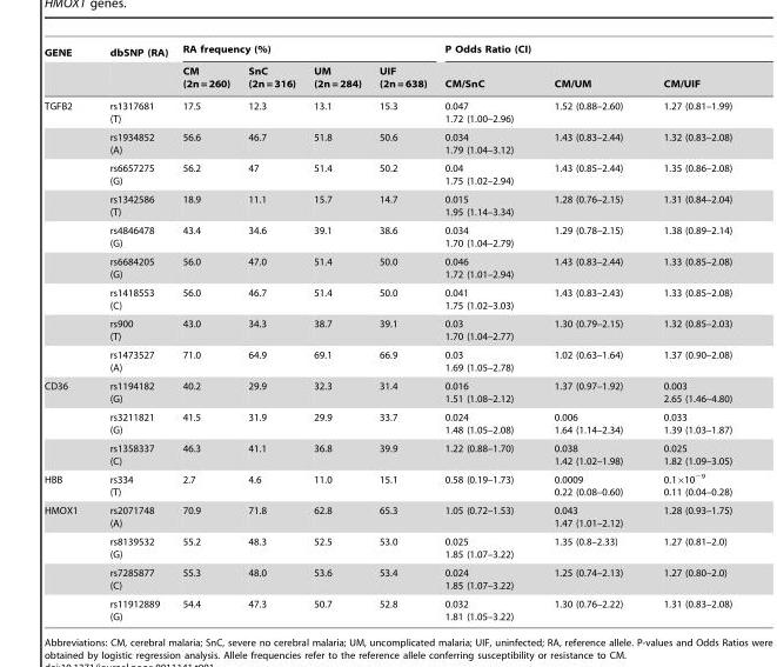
<table><thead><tr><td rowspan="2">GENE</td><td rowspan="2">dbSNP (RA)</td><td colspan="4">RA frequency (%)</td><td colspan="3">P Odds Ratio (CI)</td></tr><tr><td>CM (2n = 260)</td><td>SnC (2n = 316)</td><td>UM (2n = 284)</td><td>UIF (2n = 638)</td><td>CM/SnC</td><td>CM/UM</td><td>CM/UIF</td></tr></thead><tbody><tr><td rowspan="9">TGFB2</td><td>rs1317681 (T)</td><td>17.5</td><td>12.3</td><td>13.1</td><td>15.3</td><td>0.047 1.72 (1.00–2.96)</td><td>1.52 (0.88–2.60)</td><td>1.27 (0.81–1.99)</td></tr><tr><td>rs1934852 (A)</td><td>56.6</td><td>46.7</td><td>51.8</td><td>50.6</td><td>0.034 1.79 (1.04–3.12)</td><td>1.43 (0.83–2.44)</td><td>1.32 (0.83–2.08)</td></tr><tr><td>rs6657275 (G)</td><td>56.2</td><td>47</td><td>51.4</td><td>50.2</td><td>0.04 1.75 (1.02–2.94)</td><td>1.43 (0.85–2.44)</td><td>1.35 (0.86–2.08)</td></tr><tr><td>rs1342586 (T)</td><td>18.9</td><td>11.1</td><td>15.7</td><td>14.7</td><td>0.015 1.95 (1.14–3.34)</td><td>1.28 (0.76–2.15)</td><td>1.31 (0.84–2.04)</td></tr><tr><td>rs4846478 (G)</td><td>43.4</td><td>34.6</td><td>39.1</td><td>38.6</td><td>0.034 1.70 (1.04–2.79)</td><td>1.29 (0.78–2.15)</td><td>1.38 (0.89–2.14)</td></tr><tr><td>rs6684205 (G)</td><td>56.0</td><td>47.0</td><td>51.4</td><td>50.0</td><td>0.046 1.72 (1.01–2.94)</td><td>1.43 (0.83–2.44)</td><td>1.33 (0.85–2.08)</td></tr><tr><td>rs1418553 (C)</td><td>56.0</td><td>46.7</td><td>51.4</td><td>50.0</td><td>0.041 1.75 (1.02–3.03)</td><td>1.43 (0.83–2.43)</td><td>1.33 (0.85–2.08)</td></tr><tr><td>rs900 (T)</td><td>43.0</td><td>34.3</td><td>38.7</td><td>39.1</td><td>0.03 1.70 (1.04–2.77)</td><td>1.30 (0.79–2.15)</td><td>1.32 (0.85–2.03)</td></tr><tr><td>rs1473527 (A)</td><td>71.0</td><td>64.9</td><td>69.1</td><td>66.9</td><td>0.03 1.69 (1.05–2.78)</td><td>1.02 (0.63–1.64)</td><td>1.37 (0.90–2.08)</td></tr><tr><td rowspan="3">CD36</td><td>rs1194182 (G)</td><td>40.2</td><td>29.9</td><td>32.3</td><td>31.4</td><td>0.016 1.51 (1.08–2.12)</td><td>1.37 (0.97–1.92)</td><td>0.003 2.65 (1.46–4.80)</td></tr><tr><td>rs3211821 (G)</td><td>41.5</td><td>31.9</td><td>29.9</td><td>33.7</td><td>0.024 1.48 (1.05–2.08)</td><td>0.006 1.64 (1.14–2.34)</td><td>0.033 1.39 (1.03–1.87)</td></tr><tr><td>rs1358337 (C)</td><td>46.3</td><td>41.1</td><td>36.8</td><td>39.9</td><td>1.22 (0.88–1.70)</td><td>0.038 1.42 (1.02–1.98)</td><td>0.025 1.82 (1.09–3.05)</td></tr><tr><td>HBB</td><td>rs334 (T)</td><td>2.7</td><td>4.6</td><td>11.0</td><td>15.1</td><td>0.58 (0.19–1.73)</td><td>0.0009 0.22 (0.08–0.60)</td><td>0.1×10<sup>−9</sup> 0.11 (0.04–0.28)</td></tr><tr><td rowspan="4">HMOX1</td><td>rs2071748 (A)</td><td>70.9</td><td>71.8</td><td>62.8</td><td>65.3</td><td>1.05 (0.72–1.53)</td><td>0.043 1.47 (1.01–2.12)</td><td>1.28 (0.93–1.75)</td></tr><tr><td>rs8139532 (G)</td><td>55.2</td><td>48.3</td><td>52.5</td><td>53.0</td><td>0.025 1.85 (1.07–3.22)</td><td>1.35 (0.8–2.33)</td><td>1.27 (0.81–2.0)</td></tr><tr><td>rs7285877 (C)</td><td>55.3</td><td>48.0</td><td>53.6</td><td>53.4</td><td>0.024 1.85 (1.07–3.22)</td><td>1.25 (0.74–2.13)</td><td>1.27 (0.80–2.0)</td></tr><tr><td>rs11912889 (G)</td><td>54.4</td><td>47.3</td><td>50.7</td><td>52.8</td><td>0.032 1.81 (1.05–3.22)</td><td>1.30 (0.76–2.22)</td><td>1.31 (0.83–2.08)</td></tr></tbody></table>